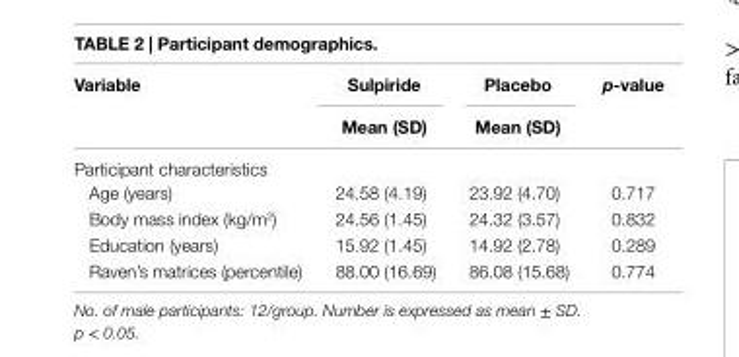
<table><thead><tr><td rowspan="2">Variable</td><td rowspan="2">sulpiride Mean (sD)</td><td rowspan="2">Placebo Mean (sD)</td><td rowspan="2">p-value</td></tr><tr></tr></thead><tbody><tr><td colspan="4">Participant characteristics</td></tr><tr><td>Age (years)</td><td>24.58 (4.19)</td><td>23.92 (4.70)</td><td>0.717</td></tr><tr><td>Body mass index (kg/m<sup>2</sup>)</td><td>24.56 (1.45)</td><td>24.32 (3.57)</td><td>0.832</td></tr><tr><td>Education (years)</td><td>15.92 (1.45)</td><td>14.92 (2.78)</td><td>0.289</td></tr><tr><td>Raven’s matrices (percentile)</td><td>88.00 (16.69)</td><td>86.08 (15.68)</td><td>0.774</td></tr></tbody></table>